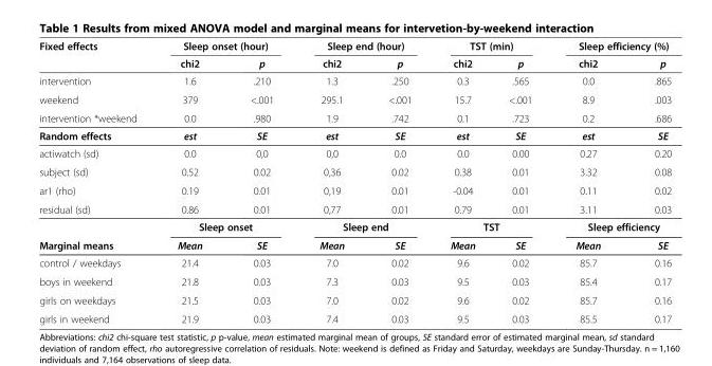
<table><thead><tr><td rowspan="2">Fixed effects</td><td colspan="2">Sleep onset (hour)</td><td colspan="2">Sleep end (hour)</td><td colspan="2">TST (min)</td><td colspan="2">Sleep efficiency (%)</td></tr><tr><td>chi2</td><td>p</td><td>chi2</td><td>p</td><td>chi2</td><td>p</td><td>chi2</td><td>p</td></tr></thead><tbody><tr><td>intervention</td><td>1.6</td><td>.210</td><td>1.3</td><td>.250</td><td>0.3</td><td>.565</td><td>0.0</td><td>.865</td></tr><tr><td>weekend</td><td>379</td><td>&lt;.001</td><td>295.1</td><td>&lt;.001</td><td>15.7</td><td>&lt;.001</td><td>8.9</td><td>.003</td></tr><tr><td>intervention *weekend</td><td>0.0</td><td>.980</td><td>1.9</td><td>.742</td><td>0.1</td><td>.723</td><td>0.2</td><td>.686</td></tr><tr><td>Random effects</td><td>est</td><td>SE</td><td>est</td><td>SE</td><td>est</td><td>SE</td><td>est</td><td>SE</td></tr><tr><td>actiwatch (sd)</td><td>0.0</td><td>0,0</td><td>0,0</td><td>0.0</td><td>0.0</td><td>0.00</td><td>0.27</td><td>0.20</td></tr><tr><td>subject (sd)</td><td>0.52</td><td>0.02</td><td>0,36</td><td>0.02</td><td>0.38</td><td>0.01</td><td>3.32</td><td>0.08</td></tr><tr><td>ar1 (rho)</td><td>0.19</td><td>0.01</td><td>0,19</td><td>0.01</td><td>-0.04</td><td>0.01</td><td>0.11</td><td>0.02</td></tr><tr><td rowspan="2">residual (sd)</td><td>0.86</td><td>0.01</td><td>0,77</td><td>0.01</td><td>0.79</td><td>0.01</td><td>3.11</td><td>0.03</td></tr><tr><td colspan="2">Sleep onset</td><td colspan="2">Sleep end</td><td colspan="2">TST</td><td colspan="2">Sleep efficiency</td></tr><tr><td>Marginal means</td><td>Mean</td><td>SE</td><td>Mean</td><td>SE</td><td>Mean</td><td>SE</td><td>Mean</td><td>SE</td></tr><tr><td>control / weekdays</td><td>21.4</td><td>0.03</td><td>7.0</td><td>0.02</td><td>9.6</td><td>0.02</td><td>85.7</td><td>0.16</td></tr><tr><td>boys in weekend</td><td>21.8</td><td>0.03</td><td>7.3</td><td>0.03</td><td>9.5</td><td>0.03</td><td>85.4</td><td>0.17</td></tr><tr><td>girls on weekdays</td><td>21.5</td><td>0.03</td><td>7.0</td><td>0.02</td><td>9.6</td><td>0.02</td><td>85.7</td><td>0.16</td></tr><tr><td>girls in weekend</td><td>21.9</td><td>0.03</td><td>7.4</td><td>0.03</td><td>9.5</td><td>0.03</td><td>85.5</td><td>0.17</td></tr></tbody></table>